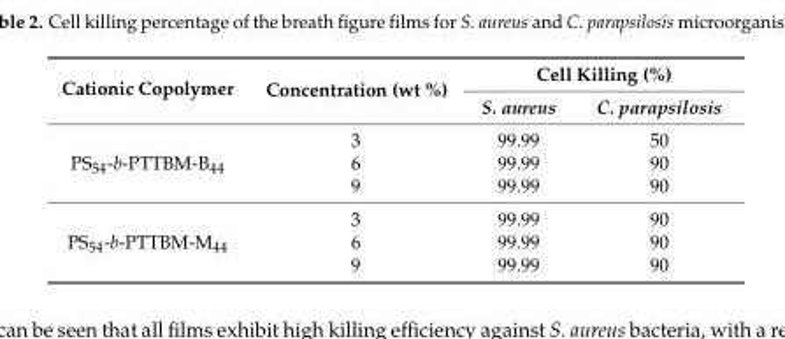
<table><thead><tr><td rowspan="2">Cationic Copolymer</td><td rowspan="2">Concentration (wt %)</td><td colspan="2">Cell Killing (%)</td></tr><tr><td>S. aureus</td><td>C. parapsilosis</td></tr></thead><tbody><tr><td rowspan="3">PS<sub>54</sub>-b-PTTBM-B<sub>44</sub></td><td>3</td><td>99.99</td><td>50</td></tr><tr><td>6</td><td>99.99</td><td>90</td></tr><tr><td>9</td><td>99.99</td><td>90</td></tr><tr><td rowspan="3">PS<sub>54</sub>-b-PTTBM-M<sub>44</sub></td><td>3</td><td>99.99</td><td>90</td></tr><tr><td>6</td><td>99.99</td><td>90</td></tr><tr><td>9</td><td>99.99</td><td>90</td></tr></tbody></table>